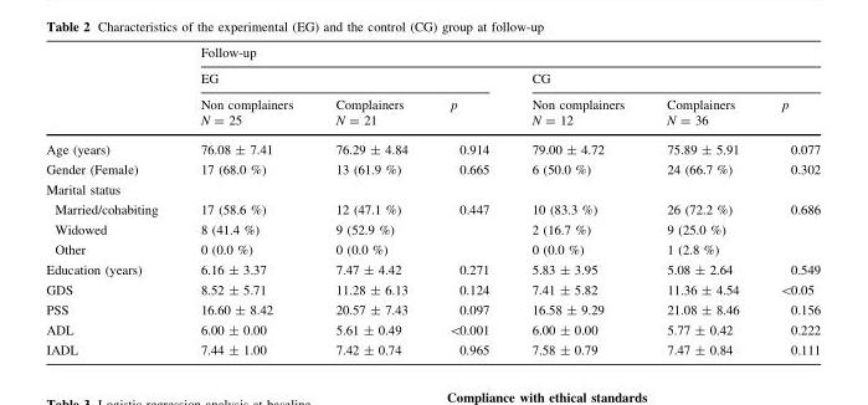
<table><thead><tr><td rowspan="4"></td><td colspan="6">Follow-up</td></tr><tr><td colspan="3">EG</td><td colspan="3">CG</td></tr><tr><td rowspan="2">Non complainers N = 25</td><td rowspan="2">Complainers N = 21</td><td rowspan="2">p</td><td rowspan="2">Non complainers N = 12</td><td rowspan="2">Complainers N = 36</td><td rowspan="2">p</td></tr><tr></tr></thead><tbody><tr><td>Age (years)</td><td>76.08 ± 7.41</td><td>76.29 ± 4.84</td><td>0.914</td><td>79.00 ± 4.72</td><td>75.89 ± 5.91</td><td>0.077</td></tr><tr><td>Gender (Female)</td><td>17 (68.0 %)</td><td>13 (61.9 %)</td><td>0.665</td><td>6 (50.0 %)</td><td>24 (66.7 %)</td><td>0.302</td></tr><tr><td colspan="7">Marital status</td></tr><tr><td>Married/cohabiting</td><td>17 (58.6 %)</td><td>12 (47.1 %)</td><td rowspan="3">0.447</td><td>10 (83.3 %)</td><td>26 (72.2 %)</td><td rowspan="3">0.686</td></tr><tr><td>Widowed</td><td>8 (41.4 %)</td><td>9 (52.9 %)</td><td>2 (16.7 %)</td><td>9 (25.0 %)</td></tr><tr><td>Other</td><td>0 (0.0 %)</td><td>0 (0.0 %)</td><td>0 (0.0 %)</td><td>1 (2.8 %)</td></tr><tr><td>Education (years)</td><td>6.16 ± 3.37</td><td>7.47 ± 4.42</td><td>0.271</td><td>5.83 ± 3.95</td><td>5.08 ± 2.64</td><td>0.549</td></tr><tr><td>GDS</td><td>8.52 ± 5.71</td><td>11.28 ± 6.13</td><td>0.124</td><td>7.41 ± 5.82</td><td>11.36 ± 4.54</td><td>&lt;0.05</td></tr><tr><td>PSS</td><td>16.60 ± 8.42</td><td>20.57 ± 7.43</td><td>0.097</td><td>16.58 ± 9.29</td><td>21.08 ± 8.46</td><td>0.156</td></tr><tr><td>ADL</td><td>6.00 ± 0.00</td><td>5.61 ± 0.49</td><td>&lt;0.001</td><td>6.00 ± 0.00</td><td>5.77 ± 0.42</td><td>0.222</td></tr><tr><td>IADL</td><td>7.44 ± 1.00</td><td>7.42 ± 0.74</td><td>0.965</td><td>7.58 ± 0.79</td><td>7.47 ± 0.84</td><td>0.111</td></tr></tbody></table>